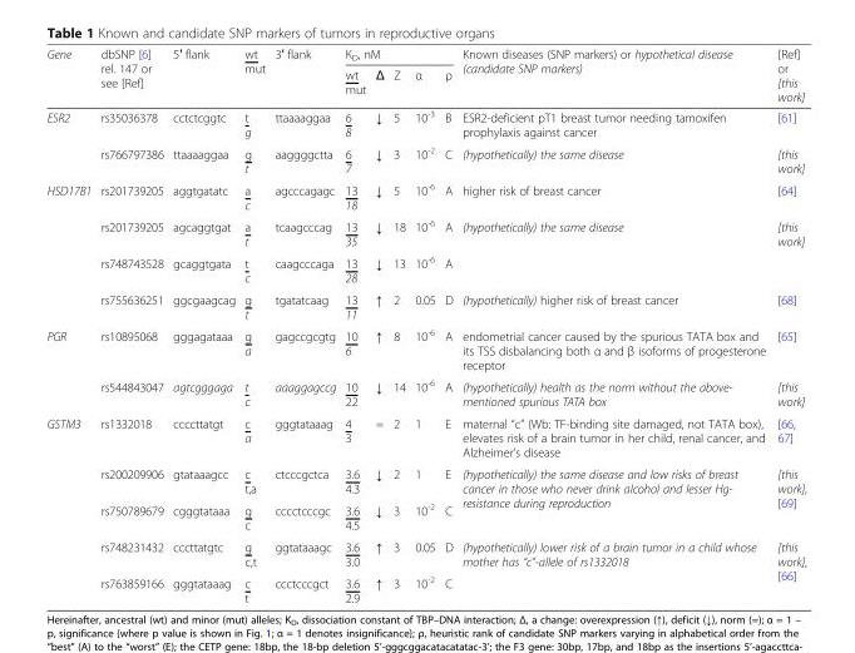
<table><thead><tr><td rowspan="2">Gene</td><td rowspan="2">dbSNP [6] rel. 147 or see [Ref]</td><td rowspan="2">5′ flank</td><td rowspan="2">wt mut</td><td rowspan="2">3′ flank</td><td colspan="5">K<sub>D</sub>, nM</td><td rowspan="2">Known diseases (SNP markers) or hypothetical disease (candidate SNP markers)</td><td rowspan="2">[Ref] or [this work]</td></tr><tr><td>wt mut</td><td>Δ</td><td>Z</td><td>α</td><td>ρ</td></tr></thead><tbody><tr><td rowspan="2">ESR2</td><td>rs35036378</td><td>cctctcggtc</td><td>t g</td><td>ttaaaaggaa</td><td>6 8</td><td>↓</td><td>5</td><td>10<sup>-3</sup></td><td>B</td><td>ESR2-deficient pT1 breast tumor needing tamoxifen prophylaxis against cancer</td><td>[61]</td></tr><tr><td>rs766797386</td><td>ttaaaaggaa</td><td>g t</td><td>aaggggctta</td><td>6 7</td><td>↓</td><td>3</td><td>10<sup>-2</sup></td><td>C</td><td>(hypothetically) the same disease</td><td>[this work]</td></tr><tr><td rowspan="4">HSD17B1</td><td>rs201739205</td><td>aggtgatatc</td><td>a c</td><td>agcccagagc</td><td>13 18</td><td>↓</td><td>5</td><td>10<sup>-6</sup></td><td>A</td><td>higher risk of breast cancer</td><td>[64]</td></tr><tr><td>rs201739205</td><td>agcaggtgat</td><td>a t</td><td>tcaagcccag</td><td>13 35</td><td>↓</td><td>18</td><td>10<sup>-6</sup></td><td>A</td><td rowspan="2">(hypothetically) the same disease</td><td rowspan="2">[this work]</td></tr><tr><td>rs748743528</td><td>gcaggtgata</td><td>t c</td><td>caagcccaga</td><td>13 28</td><td>↓</td><td>13</td><td>10<sup>-6</sup></td><td>A</td></tr><tr><td>rs755636251</td><td>ggcgaagcag</td><td>g t</td><td>tgatatcaag</td><td>13 11</td><td>↑</td><td>2</td><td>0.05</td><td>D</td><td>(hypothetically) higher risk of breast cancer</td><td>[68]</td></tr><tr><td rowspan="2">PGR</td><td>rs10895068</td><td>gggagataaa</td><td>g a</td><td>gagccgcgtg</td><td>10 6</td><td>↑</td><td>8</td><td>10<sup>-6</sup></td><td>A</td><td>endometrial cancer caused by the spurious TATA box and its TSS disbalancing both α and β isoforms of progesterone receptor</td><td>[65]</td></tr><tr><td>rs544843047</td><td>agtcgggaga</td><td>t c</td><td>aaaggagccg</td><td>10 22</td><td>↓</td><td>14</td><td>10<sup>-6</sup></td><td>A</td><td>(hypothetically) health as the norm without the above- mentioned spurious TATA box</td><td>[this work]</td></tr><tr><td rowspan="5">GSTM3</td><td>rs1332018</td><td>ccccttatgt</td><td>c a</td><td>gggtataaag</td><td>4 3</td><td>=</td><td>2</td><td>1</td><td>E</td><td>maternal “c” (Wb: TF-binding site damaged, not TATA box), elevates risk of a brain tumor in her child, renal cancer, and Alzheimer’s disease</td><td>[66, 67]</td></tr><tr><td>rs200209906</td><td>gtataaagcc</td><td>c t,a</td><td>ctcccgctca</td><td>3.6 4.3</td><td>↓</td><td>2</td><td>1</td><td>E</td><td rowspan="2">(hypothetically) the same disease and low risks of breast cancer in those who never drink alcohol and lesser Hg- resistance during reproduction</td><td rowspan="2">[this work], [69]</td></tr><tr><td>rs750789679</td><td>cgggtataaa</td><td>g c</td><td>cccctcccgc</td><td>3.6 4.5</td><td>↓</td><td>3</td><td>10<sup>-2</sup></td><td>C</td></tr><tr><td>rs748231432</td><td>cccttatgtc</td><td>g c,t</td><td>ggtataaagc</td><td>3.6 3.0</td><td>↑</td><td>3</td><td>0.05</td><td>D</td><td rowspan="2">(hypothetically) lower risk of a brain tumor in a child whose mother has “c”-allele of rs1332018</td><td rowspan="2">[this work], [66]</td></tr><tr><td>rs763859166</td><td>gggtataaag</td><td>c t</td><td>ccctcccgct</td><td>3.6 2.9</td><td>↑</td><td>3</td><td>10<sup>-2</sup></td><td>C</td></tr></tbody></table>